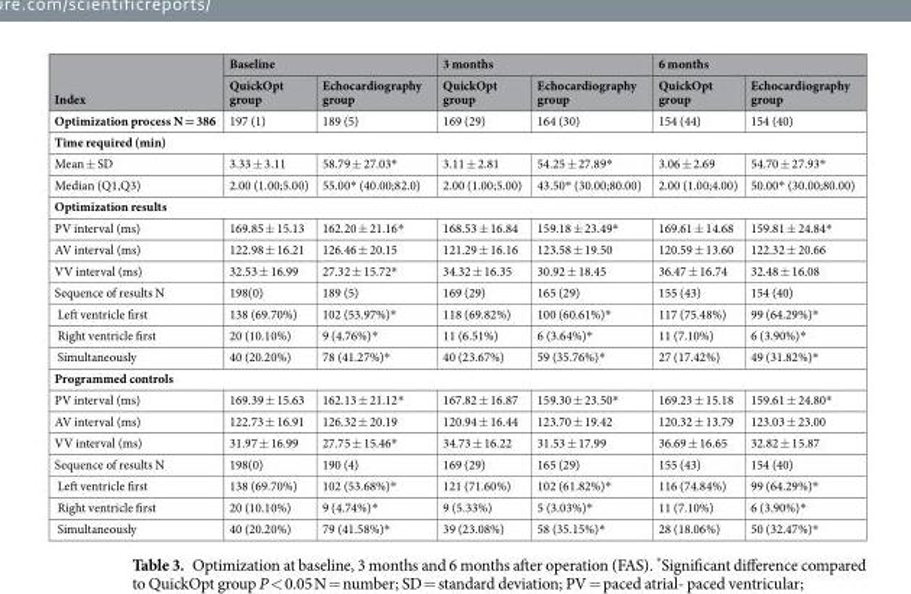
<table><thead><tr><td rowspan="2">Index</td><td colspan="2">Baseline</td><td colspan="2">3 months</td><td colspan="2">6 months</td></tr><tr><td>QuickOpt group</td><td>Echocardiography group</td><td>QuickOpt group</td><td>Echocardiography group</td><td>QuickOpt group</td><td>Echocardiography group</td></tr></thead><tbody><tr><td>Optimization process N = 386</td><td>197 (1)</td><td>189 (5)</td><td>169 (29)</td><td>164 (30)</td><td>154 (44)</td><td>154 (40)</td></tr><tr><td colspan="7">Time required (min)</td></tr><tr><td>Mean ± SD</td><td>3.33 ± 3.11</td><td>58.79 ± 27.03*</td><td>3.11 ± 2.81</td><td>54.25 ± 27.89*</td><td>3.06 ± 2.69</td><td>54.70 ± 27.93*</td></tr><tr><td>Median (Q1,Q3)</td><td>2.00 (1.00;5.00)</td><td>55.00* (40.00;82.0)</td><td>2.00 (1.00;5.00)</td><td>43.50* (30.00;80.00)</td><td>2.00 (1.00;4.00)</td><td>50.00* (30.00;80.00)</td></tr><tr><td colspan="7">Optimization results</td></tr><tr><td>PV interval (ms)</td><td>169.85 ± 15.13</td><td>162.20 ± 21.16*</td><td>168.53 ± 16.84</td><td>159.18 ± 23.49*</td><td>169.61 ± 14.68</td><td>159.81 ± 24.84*</td></tr><tr><td>AV interval (ms)</td><td>122.98 ± 16.21</td><td>126.46 ± 20.15</td><td>121.29 ± 16.16</td><td>123.58 ± 19.50</td><td>120.59 ± 13.60</td><td>122.32 ± 20.66</td></tr><tr><td>VV interval (ms)</td><td>32.53 ± 16.99</td><td>27.32 ± 15.72*</td><td>34.32 ± 16.35</td><td>30.92 ± 18.45</td><td>36.47 ± 16.74</td><td>32.48 ± 16.08</td></tr><tr><td>Sequence of results N</td><td>198(0)</td><td>189 (5)</td><td>169 (29)</td><td>165 (29)</td><td>155 (43)</td><td>154 (40)</td></tr><tr><td>Left ventricle first</td><td>138 (69.70%)</td><td>102 (53.97%)*</td><td>118 (69.82%)</td><td>100 (60.61%)*</td><td>117 (75.48%)</td><td>99 (64.29%)*</td></tr><tr><td>Right ventricle first</td><td>20 (10.10%)</td><td>9 (4.76%)*</td><td>11 (6.51%)</td><td>6 (3.64%)*</td><td>11 (7.10%)</td><td>6 (3.90%)*</td></tr><tr><td>Simultaneously</td><td>40 (20.20%)</td><td>78 (41.27%)*</td><td>40 (23.67%)</td><td>59 (35.76%)*</td><td>27 (17.42%)</td><td>49 (31.82%)*</td></tr><tr><td colspan="7">Programmed controls</td></tr><tr><td>PV interval (ms)</td><td>169.39 ± 15.63</td><td>162.13 ± 21.12*</td><td>167.82 ± 16.87</td><td>159.30 ± 23.50*</td><td>169.23 ± 15.18</td><td>159.61 ± 24.80*</td></tr><tr><td>AV interval (ms)</td><td>122.73 ± 16.91</td><td>126.32 ± 20.19</td><td>120.94 ± 16.44</td><td>123.70 ± 19.42</td><td>120.32 ± 13.79</td><td>123.03 ± 23.00</td></tr><tr><td>VV interval (ms)</td><td>31.97 ± 16.99</td><td>27.75 ± 15.46*</td><td>34.73 ± 16.22</td><td>31.53 ± 17.99</td><td>36.69 ± 16.65</td><td>32.82 ± 15.87</td></tr><tr><td>Sequence of results N</td><td>198(0)</td><td>190 (4)</td><td>169 (29)</td><td>165 (29)</td><td>155 (43)</td><td>154 (40)</td></tr><tr><td>Left ventricle first</td><td>138 (69.70%)</td><td>102 (53.68%)*</td><td>121 (71.60%)</td><td>102 (61.82%)*</td><td>116 (74.84%)</td><td>99 (64.29%)*</td></tr><tr><td>Right ventricle first</td><td>20 (10.10%)</td><td>9 (4.74%)*</td><td>9 (5.33%)</td><td>5 (3.03%)*</td><td>11 (7.10%)</td><td>6 (3.90%)*</td></tr><tr><td>Simultaneously</td><td>40 (20.20%)</td><td>79 (41.58%)*</td><td>39 (23.08%)</td><td>58 (35.15%)*</td><td>28 (18.06%)</td><td>50 (32.47%)*</td></tr></tbody></table>